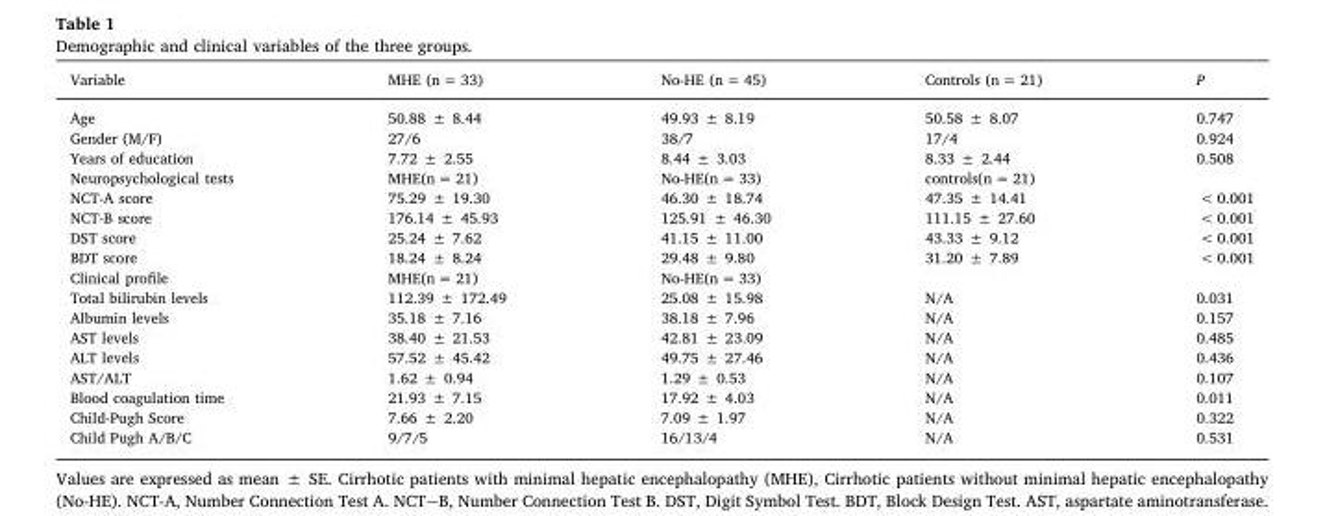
<table><thead><tr><td>Variable</td><td>MHE (n = 33)</td><td>No-HE (n = 45)</td><td>Controls (n = 21)</td><td>P</td></tr></thead><tbody><tr><td>Age</td><td>50.88 ± 8.44</td><td>49.93 ± 8.19</td><td>50.58 ± 8.07</td><td>0.747</td></tr><tr><td>Gender (M/F)</td><td>27/6</td><td>38/7</td><td>17/4</td><td>0.924</td></tr><tr><td>Years of education</td><td>7.72 ± 2.55</td><td>8.44 ± 3.03</td><td>8.33 ± 2.44</td><td>0.508</td></tr><tr><td>Neuropsychological tests</td><td>MHE(n = 21)</td><td>No-HE(n = 33)</td><td>controls(n = 21)</td><td></td></tr><tr><td>NCT-A score</td><td>75.29 ± 19.30</td><td>46.30 ± 18.74</td><td>47.35 ± 14.41</td><td>&lt; 0.001</td></tr><tr><td>NCT-B score</td><td>176.14 ± 45.93</td><td>125.91 ± 46.30</td><td>111.15 ± 27.60</td><td>&lt; 0.001</td></tr><tr><td>DST score</td><td>25.24 ± 7.62</td><td>41.15 ± 11.00</td><td>43.33 ± 9.12</td><td>&lt; 0.001</td></tr><tr><td>BDT score</td><td>18.24 ± 8.24</td><td>29.48 ± 9.80</td><td>31.20 ± 7.89</td><td>&lt; 0.001</td></tr><tr><td>Clinical profile</td><td>MHE(n = 21)</td><td>No-HE(n = 33)</td><td></td><td></td></tr><tr><td>Total bilirubin levels</td><td>112.39 ± 172.49</td><td>25.08 ± 15.98</td><td>N/A</td><td>0.031</td></tr><tr><td>Albumin levels</td><td>35.18 ± 7.16</td><td>38.18 ± 7.96</td><td>N/A</td><td>0.157</td></tr><tr><td>AST levels</td><td>38.40 ± 21.53</td><td>42.81 ± 23.09</td><td>N/A</td><td>0.485</td></tr><tr><td>ALT levels</td><td>57.52 ± 45.42</td><td>49.75 ± 27.46</td><td>N/A</td><td>0.436</td></tr><tr><td>AST/ALT</td><td>1.62 ± 0.94</td><td>1.29 ± 0.53</td><td>N/A</td><td>0.107</td></tr><tr><td>Blood coagulation time</td><td>21.93 ± 7.15</td><td>17.92 ± 4.03</td><td>N/A</td><td>0.011</td></tr><tr><td>Child-Pugh Score</td><td>7.66 ± 2.20</td><td>7.09 ± 1.97</td><td>N/A</td><td>0.322</td></tr><tr><td>Child Pugh A/B/C</td><td>9/7/5</td><td>16/13/4</td><td>N/A</td><td>0.531</td></tr></tbody></table>